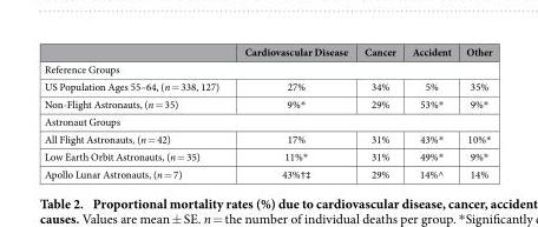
<table><thead><tr><td></td><td>Cardiovascular Disease</td><td>Cancer</td><td>Accident</td><td>Other</td></tr></thead><tbody><tr><td colspan="5">Reference Groups</td></tr><tr><td>US Population Ages 55–64, (n = 338, 127)</td><td>27%</td><td>34%</td><td>5%</td><td>35%</td></tr><tr><td>Non-Flight Astronauts, (n = 35)</td><td>9%*</td><td>29%</td><td>53%*</td><td>9%*</td></tr><tr><td colspan="5">Astronaut Groups</td></tr><tr><td>All Flight Astronauts, (n = 42)</td><td>17%</td><td>31%</td><td>43%*</td><td>10%*</td></tr><tr><td>Low Earth Orbit Astronauts, (n = 35)</td><td>11%*</td><td>31%</td><td>49%*</td><td>9%*</td></tr><tr><td>Apollo Lunar Astronauts, (n = 7)</td><td>43%†‡</td><td>29%</td><td>14%^</td><td>14%</td></tr></tbody></table>